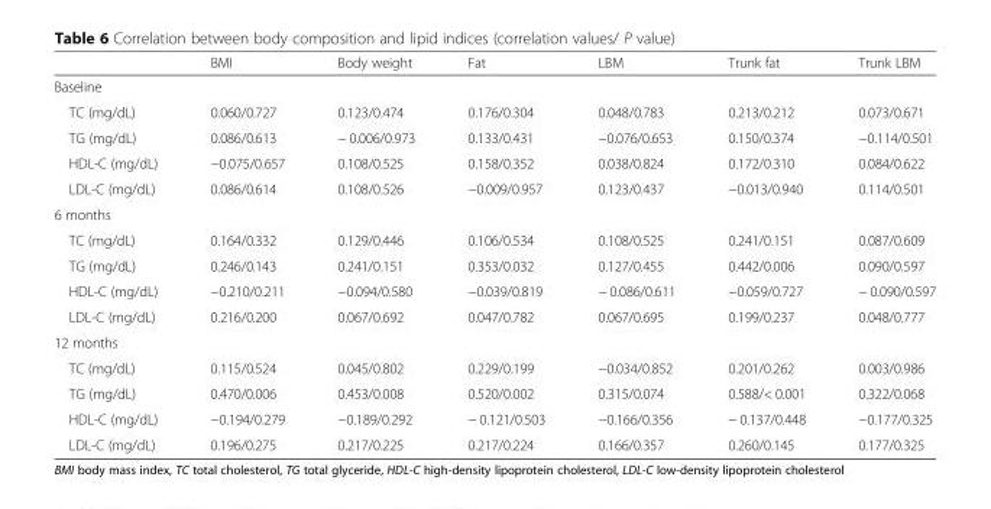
<table><thead><tr><td></td><td>BMI</td><td>Body weight</td><td>Fat</td><td>LBM</td><td>Trunk fat</td><td>Trunk LBM</td></tr></thead><tbody><tr><td colspan="7">Baseline</td></tr><tr><td>TC (mg/dL)</td><td>0.060/0.727</td><td>0.123/0.474</td><td>0.176/0.304</td><td>0.048/0.783</td><td>0.213/0.212</td><td>0.073/0.671</td></tr><tr><td>TG (mg/dL)</td><td>0.086/0.613</td><td>− 0.006/0.973</td><td>0.133/0.431</td><td>−0.076/0.653</td><td>0.150/0.374</td><td>−0.114/0.501</td></tr><tr><td>HDL-C (mg/dL)</td><td>−0.075/0.657</td><td>0.108/0.525</td><td>0.158/0.352</td><td>0.038/0.824</td><td>0.172/0.310</td><td>0.084/0.622</td></tr><tr><td>LDL-C (mg/dL)</td><td>0.086/0.614</td><td>0.108/0.526</td><td>−0.009/0.957</td><td>0.123/0.437</td><td>−0.013/0.940</td><td>0.114/0.501</td></tr><tr><td colspan="7">6 months</td></tr><tr><td>TC (mg/dL)</td><td>0.164/0.332</td><td>0.129/0.446</td><td>0.106/0.534</td><td>0.108/0.525</td><td>0.241/0.151</td><td>0.087/0.609</td></tr><tr><td>TG (mg/dL)</td><td>0.246/0.143</td><td>0.241/0.151</td><td>0.353/0.032</td><td>0.127/0.455</td><td>0.442/0.006</td><td>0.090/0.597</td></tr><tr><td>HDL-C (mg/dL)</td><td>−0.210/0.211</td><td>−0.094/0.580</td><td>−0.039/0.819</td><td>− 0.086/0.611</td><td>−0.059/0.727</td><td>− 0.090/0.597</td></tr><tr><td>LDL-C (mg/dL)</td><td>0.216/0.200</td><td>0.067/0.692</td><td>0.047/0.782</td><td>0.067/0.695</td><td>0.199/0.237</td><td>0.048/0.777</td></tr><tr><td colspan="7">12 months</td></tr><tr><td>TC (mg/dL)</td><td>0.115/0.524</td><td>0.045/0.802</td><td>0.229/0.199</td><td>−0.034/0.852</td><td>0.201/0.262</td><td>0.003/0.986</td></tr><tr><td>TG (mg/dL)</td><td>0.470/0.006</td><td>0.453/0.008</td><td>0.520/0.002</td><td>0.315/0.074</td><td>0.588/&lt; 0.001</td><td>0.322/0.068</td></tr><tr><td>HDL-C (mg/dL)</td><td>−0.194/0.279</td><td>−0.189/0.292</td><td>− 0.121/0.503</td><td>−0.166/0.356</td><td>− 0.137/0.448</td><td>−0.177/0.325</td></tr><tr><td>LDL-C (mg/dL)</td><td>0.196/0.275</td><td>0.217/0.225</td><td>0.217/0.224</td><td>0.166/0.357</td><td>0.260/0.145</td><td>0.177/0.325</td></tr></tbody></table>